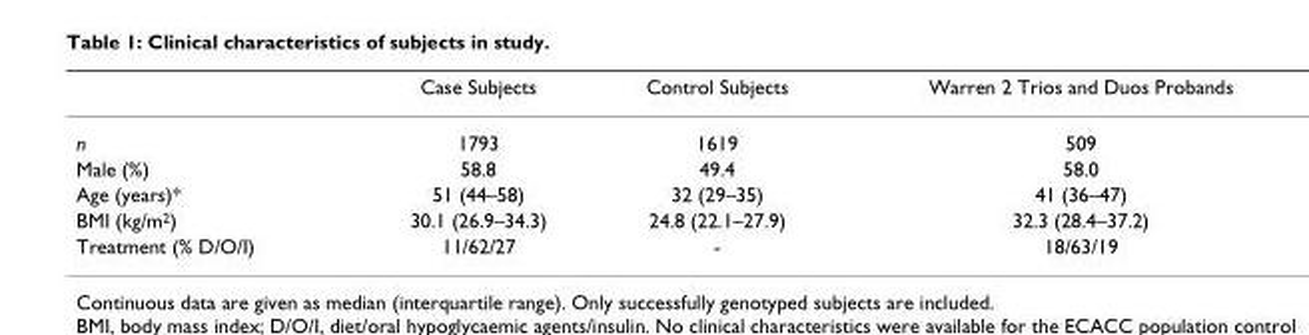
<table><thead><tr><td></td><td>Case Subjects</td><td>Control Subjects</td><td>Warren 2 Trios and Duos Probands</td></tr></thead><tbody><tr><td>n</td><td>1793</td><td>1619</td><td>509</td></tr><tr><td>Male (%)</td><td>58.8</td><td>49.4</td><td>58.0</td></tr><tr><td>Age (years)*</td><td>51 (44–58)</td><td>32 (29–35)</td><td>41 (36–47)</td></tr><tr><td>BMI (kg/m<sup>2</sup>)</td><td>30.1 (26.9–34.3)</td><td>24.8 (22.1–27.9)</td><td>32.3 (28.4–37.2)</td></tr><tr><td>Treatment (% D/O/I)</td><td>11/62/27</td><td>-</td><td>18/63/19</td></tr></tbody></table>